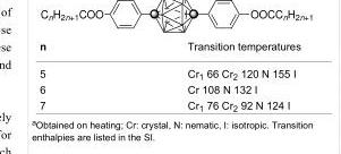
<table><tbody><tr><td>n</td><td>Transition temperatures</td></tr><tr><td>5</td><td>Cr<sub>1</sub> 66 Cr<sub>2</sub> 120 N 155 I</td></tr><tr><td>6</td><td>Cr 108 N 132 I</td></tr><tr><td>7</td><td>Cr<sub>1</sub> 76 Cr<sub>2</sub> 92 N 124 I</td></tr></tbody></table>